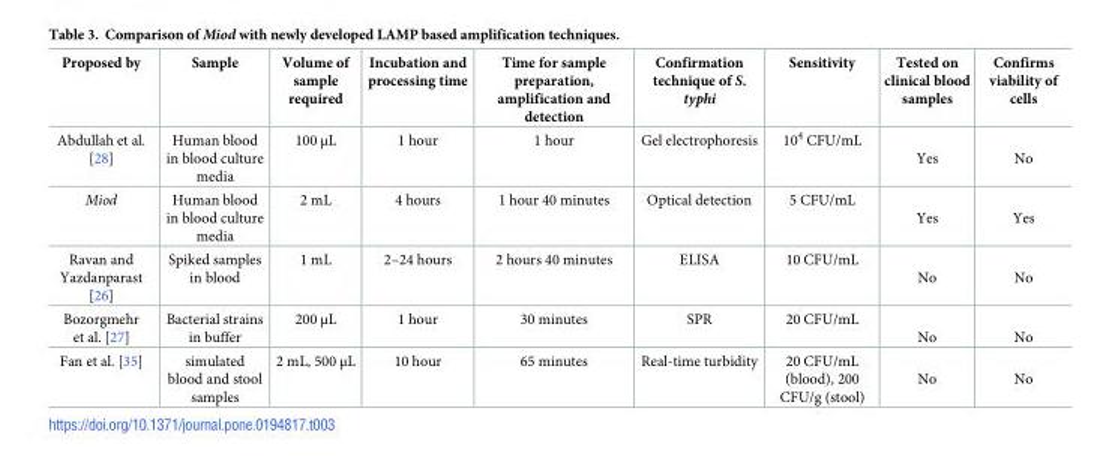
<table><thead><tr><td>Proposed by</td><td>Sample</td><td>Volume of sample required</td><td>Incubation and processing time</td><td>Time for sample preparation, amplification and detection</td><td>Confirmation technique of S. typhi</td><td>Sensitivity</td><td>Tested on clinical blood samples</td><td>Confirms viability of cells</td></tr></thead><tbody><tr><td>Abdullah et al. [28]</td><td>Human blood in blood culture media</td><td>100 μL</td><td>1 hour</td><td>1 hour</td><td>Gel electrophoresis</td><td>10<sup>4</sup> CFU/mL</td><td>Yes</td><td>No</td></tr><tr><td>Miod</td><td>Human blood in blood culture media</td><td>2 mL</td><td>4 hours</td><td>1 hour 40 minutes</td><td>Optical detection</td><td>5 CFU/mL</td><td>Yes</td><td>Yes</td></tr><tr><td>Ravan and Yazdanparast [26]</td><td>Spiked samples in blood</td><td>1 mL</td><td>2–24 hours</td><td>2 hours 40 minutes</td><td>ELISA</td><td>10 CFU/mL</td><td>No</td><td>No</td></tr><tr><td>Bozorgmehr et al. [27]</td><td>Bacterial strains in buffer</td><td>200 μL</td><td>1 hour</td><td>30 minutes</td><td>SPR</td><td>20 CFU/mL</td><td>No</td><td>No</td></tr><tr><td>Fan et al. [35]</td><td>simulated blood and stool samples</td><td>2 mL, 500 μL</td><td>10 hour</td><td>65 minutes</td><td>Real-time turbidity</td><td>20 CFU/mL (blood), 200 CFU/g (stool)</td><td>No</td><td>No</td></tr></tbody></table>